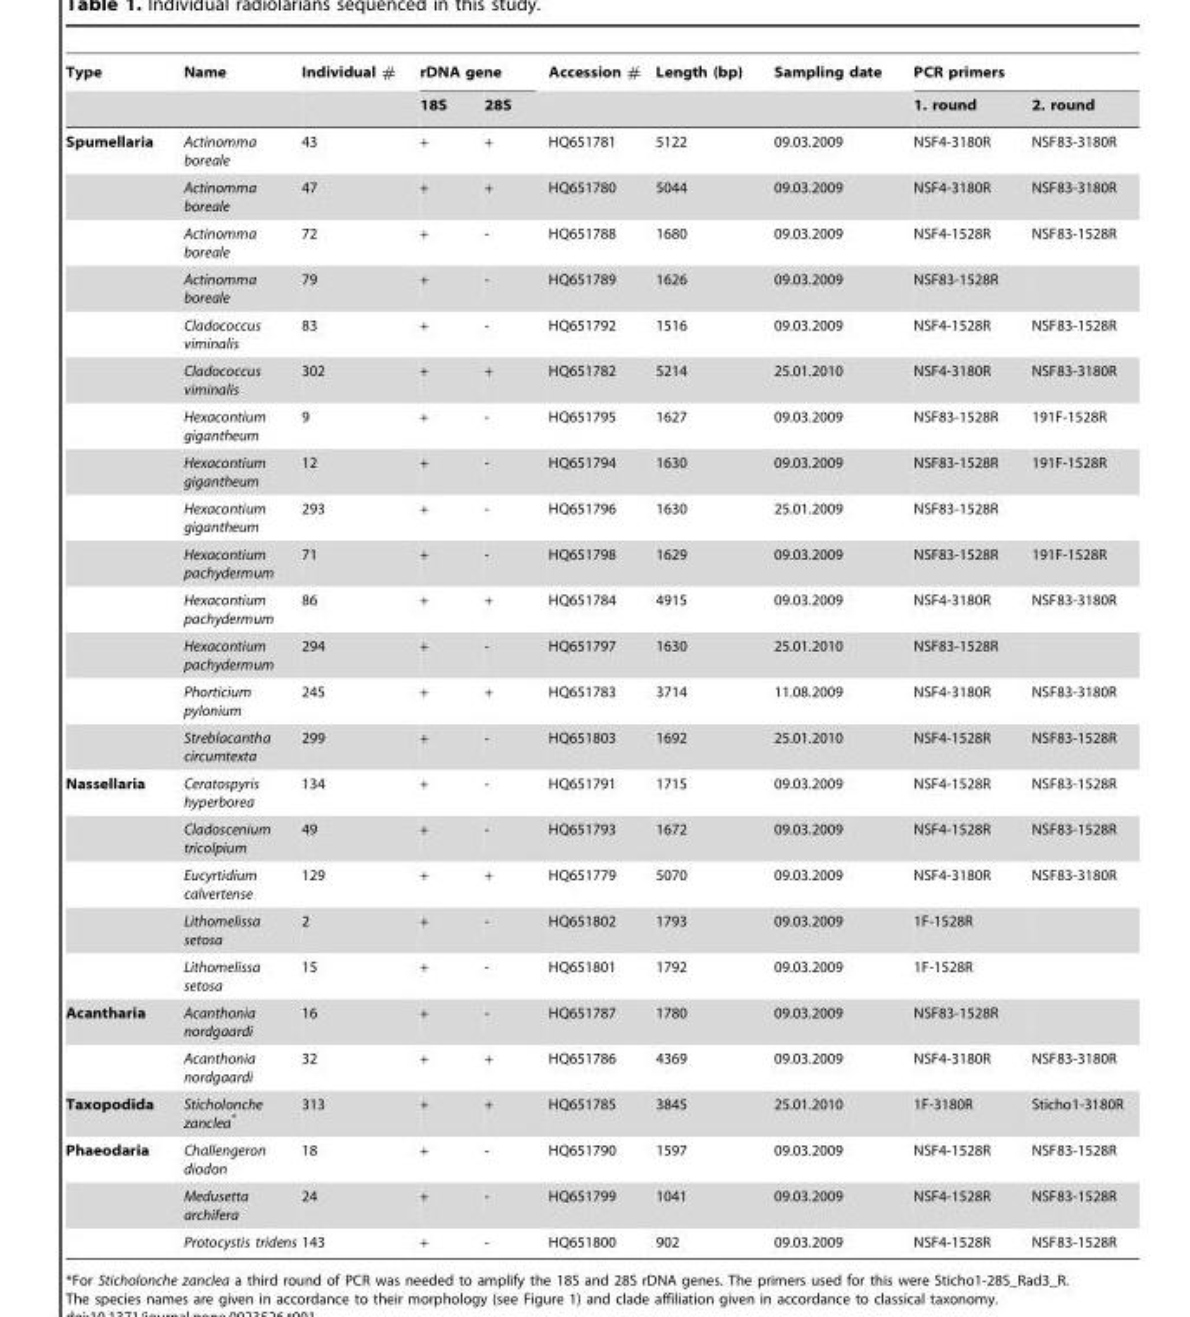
<table><thead><tr><td rowspan="2">Type</td><td rowspan="2">Name</td><td rowspan="2">Individual #</td><td colspan="2">rDNA gene</td><td rowspan="2">Accession #</td><td rowspan="2">Length (bp)</td><td rowspan="2">Sampling date</td><td colspan="2">PCR primers</td></tr><tr><td>18S</td><td>28S</td><td>1. round</td><td>2. round</td></tr></thead><tbody><tr><td rowspan="14">Spumellaria</td><td>Actinomma boreale</td><td>43</td><td>+</td><td>+</td><td>HQ651781</td><td>5122</td><td>09.03.2009</td><td>NSF4-3180R</td><td>NSF83-3180R</td></tr><tr><td>Actinomma boreale</td><td>47</td><td>+</td><td>+</td><td>HQ651780</td><td>5044</td><td>09.03.2009</td><td>NSF4-3180R</td><td>NSF83-3180R</td></tr><tr><td>Actinomma boreale</td><td>72</td><td>+</td><td>-</td><td>HQ651788</td><td>1680</td><td>09.03.2009</td><td>NSF4-1528R</td><td>NSF83-1528R</td></tr><tr><td>Actinomma boreale</td><td>79</td><td>+</td><td>-</td><td>HQ651789</td><td>1626</td><td>09.03.2009</td><td>NSF83-1528R</td><td></td></tr><tr><td>Cladococcus viminalis</td><td>83</td><td>+</td><td>-</td><td>HQ651792</td><td>1516</td><td>09.03.2009</td><td>NSF4-1528R</td><td>NSF83-1528R</td></tr><tr><td>Cladococcus viminalis</td><td>302</td><td>+</td><td>+</td><td>HQ651782</td><td>5214</td><td>25.01.2010</td><td>NSF4-3180R</td><td>NSF83-3180R</td></tr><tr><td>Hexacontium gigantheum</td><td>9</td><td>+</td><td>-</td><td>HQ651795</td><td>1627</td><td>09.03.2009</td><td>NSF83-1528R</td><td>191F-1528R</td></tr><tr><td>Hexacontium gigantheum</td><td>12</td><td>+</td><td>-</td><td>HQ651794</td><td>1630</td><td>09.03.2009</td><td>NSF83-1528R</td><td>191F-1528R</td></tr><tr><td>Hexacontium gigantheum</td><td>293</td><td>+</td><td>-</td><td>HQ651796</td><td>1630</td><td>25.01.2009</td><td>NSF83-1528R</td><td></td></tr><tr><td>Hexacontium pachydermum</td><td>71</td><td>+</td><td>-</td><td>HQ651798</td><td>1629</td><td>09.03.2009</td><td>NSF83-1528R</td><td>191F-1528R</td></tr><tr><td>Hexacontium pachydermum</td><td>86</td><td>+</td><td>+</td><td>HQ651784</td><td>4915</td><td>09.03.2009</td><td>NSF4-3180R</td><td>NSF83-3180R</td></tr><tr><td>Hexacontium pachydermum</td><td>294</td><td>+</td><td>-</td><td>HQ651797</td><td>1630</td><td>25.01.2010</td><td>NSF83-1528R</td><td></td></tr><tr><td>Phorticium pylonium</td><td>245</td><td>+</td><td>+</td><td>HQ651783</td><td>3714</td><td>11.08.2009</td><td>NSF4-3180R</td><td>NSF83-3180R</td></tr><tr><td>Streblacantha circumtexta</td><td>299</td><td>+</td><td>-</td><td>HQ651803</td><td>1692</td><td>25.01.2010</td><td>NSF4-1528R</td><td>NSF83-1528R</td></tr><tr><td rowspan="5">Nassellaria</td><td>Ceratospyris hyperborea</td><td>134</td><td>+</td><td>-</td><td>HQ651791</td><td>1715</td><td>09.03.2009</td><td>NSF4-1528R</td><td>NSF83-1528R</td></tr><tr><td>Cladoscenium tricolpium</td><td>49</td><td>+</td><td>-</td><td>HQ651793</td><td>1672</td><td>09.03.2009</td><td>NSF4-1528R</td><td>NSF83-1528R</td></tr><tr><td>Eucyrtidium calvertense</td><td>129</td><td>+</td><td>+</td><td>HQ651779</td><td>5070</td><td>09.03.2009</td><td>NSF4-3180R</td><td>NSF83-3180R</td></tr><tr><td>Lithomelissa setosa</td><td>2</td><td>+</td><td>-</td><td>HQ651802</td><td>1793</td><td>09.03.2009</td><td>1F-1528R</td><td></td></tr><tr><td>Lithomelissa setosa</td><td>15</td><td>+</td><td>-</td><td>HQ651801</td><td>1792</td><td>09.03.2009</td><td>1F-1528R</td><td></td></tr><tr><td rowspan="2">Acantharia</td><td>Acanthonia nordgaardi</td><td>16</td><td>+</td><td>-</td><td>HQ651787</td><td>1780</td><td>09.03.2009</td><td>NSF83-1528R</td><td></td></tr><tr><td>Acanthonia nordgaardi</td><td>32</td><td>+</td><td>+</td><td>HQ651786</td><td>4369</td><td>09.03.2009</td><td>NSF4-3180R</td><td>NSF83-3180R</td></tr><tr><td>Taxopodida</td><td>Sticholonche zanclea*</td><td>313</td><td>+</td><td>+</td><td>HQ651785</td><td>3845</td><td>25.01.2010</td><td>1F-3180R</td><td>Sticho1-3180R</td></tr><tr><td rowspan="3">Phaeodaria</td><td>Challengeron diodon</td><td>18</td><td>+</td><td>-</td><td>HQ651790</td><td>1597</td><td>09.03.2009</td><td>NSF4-1528R</td><td>NSF83-1528R</td></tr><tr><td>Medusetta archifera</td><td>24</td><td>+</td><td>-</td><td>HQ651799</td><td>1041</td><td>09.03.2009</td><td>NSF4-1528R</td><td>NSF83-1528R</td></tr><tr><td>Protocystis tridens</td><td>143</td><td>+</td><td>-</td><td>HQ651800</td><td>902</td><td>09.03.2009</td><td>NSF4-1528R</td><td>NSF83-1528R</td></tr></tbody></table>